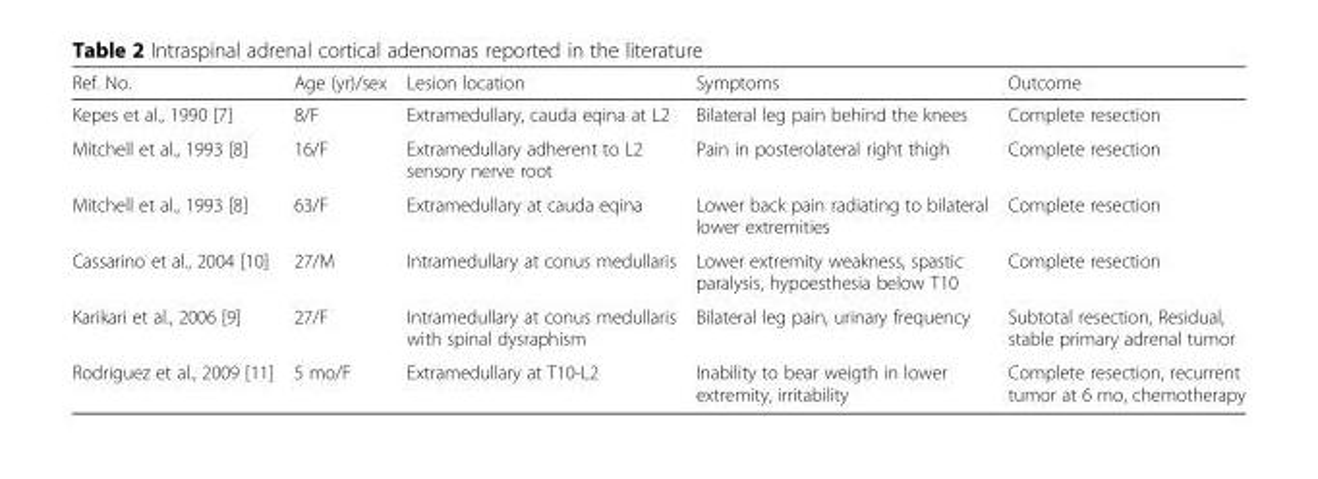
<table><thead><tr><td>Ref. No.</td><td>Age (yr)/sex</td><td>Lesion location</td><td>Symptoms</td><td>Outcome</td></tr></thead><tbody><tr><td>Kepes et al., 1990 [7]</td><td>8/F</td><td>Extramedullary, cauda eqina at L2</td><td>Bilateral leg pain behind the knees</td><td>Complete resection</td></tr><tr><td>Mitchell et al., 1993 [8]</td><td>16/F</td><td>Extramedullary adherent to L2 sensory nerve root</td><td>Pain in posterolateral right thigh</td><td>Complete resection</td></tr><tr><td>Mitchell et al., 1993 [8]</td><td>63/F</td><td>Extramedullary at cauda eqina</td><td>Lower back pain radiating to bilateral lower extremities</td><td>Complete resection</td></tr><tr><td>Cassarino et al., 2004 [10]</td><td>27/M</td><td>Intramedullary at conus medullaris</td><td>Lower extremity weakness, spastic paralysis, hypoesthesia below T10</td><td>Complete resection</td></tr><tr><td>Karikari et al., 2006 [9]</td><td>27/F</td><td>Intramedullary at conus medullaris with spinal dysraphism</td><td>Bilateral leg pain, urinary frequency</td><td>Subtotal resection, Residual, stable primary adrenal tumor</td></tr><tr><td>Rodriguez et al., 2009 [11]</td><td>5 mo/F</td><td>Extramedullary at T10-L2</td><td>Inability to bear weigth in lower extremity, irritability</td><td>Complete resection, recurrent tumor at 6 mo, chemotherapy</td></tr></tbody></table>